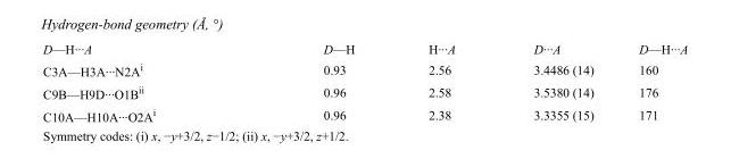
<table><tbody><tr><td>D—H···A</td><td>D—H</td><td>H···A</td><td>D···A</td><td>D—H···A</td></tr><tr><td>C3A—H3A···N2A<sup>i</sup></td><td>0.93</td><td>2.56</td><td>3.4486 (14)</td><td>160</td></tr><tr><td>C9B—H9D···O1B<sup>ii</sup></td><td>0.96</td><td>2.58</td><td>3.5380 (14)</td><td>176</td></tr><tr><td>C10A—H10A···O2A<sup>i</sup></td><td>0.96</td><td>2.38</td><td>3.3355 (15)</td><td>171</td></tr></tbody></table>